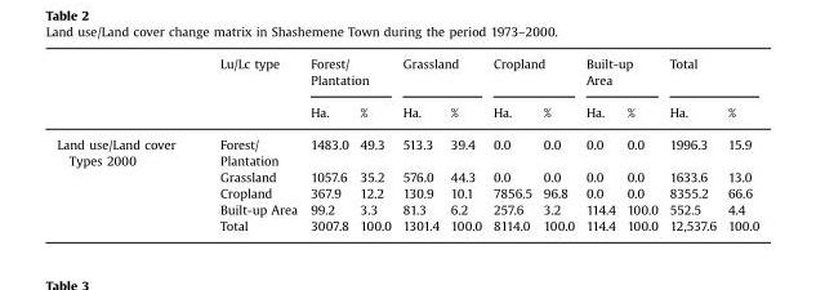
<table><thead><tr><td rowspan="2"></td><td rowspan="2">Lu/Lc type</td><td colspan="2">Forest/ Plantation</td><td colspan="2">Grassland</td><td colspan="2">Cropland</td><td colspan="2">Built-up Area</td><td colspan="2">Total</td></tr><tr><td>Ha.</td><td>%</td><td>Ha.</td><td>%</td><td>Ha.</td><td>%</td><td>Ha.</td><td>%</td><td>Ha.</td><td>%</td></tr></thead><tbody><tr><td rowspan="5">Land use/Land cover Types 2000</td><td>Forest/ Plantation</td><td>1483.0</td><td>49.3</td><td>513.3</td><td>39.4</td><td>0.0</td><td>0.0</td><td>0.0</td><td>0.0</td><td>1996.3</td><td>15.9</td></tr><tr><td>Grassland</td><td>1057.6</td><td>35.2</td><td>576.0</td><td>44.3</td><td>0.0</td><td>0.0</td><td>0.0</td><td>0.0</td><td>1633.6</td><td>13.0</td></tr><tr><td>Cropland</td><td>367.9</td><td>12.2</td><td>130.9</td><td>10.1</td><td>7856.5</td><td>96.8</td><td>0.0</td><td>0.0</td><td>8355.2</td><td>66.6</td></tr><tr><td>Built-up Area</td><td>99.2</td><td>3.3</td><td>81.3</td><td>6.2</td><td>257.6</td><td>3.2</td><td>114.4</td><td>100.0</td><td>552.5</td><td>4.4</td></tr><tr><td>Total</td><td>3007.8</td><td>100.0</td><td>1301.4</td><td>100.0</td><td>8114.0</td><td>100.0</td><td>114.4</td><td>100.0</td><td>12,537.6</td><td>100.0</td></tr></tbody></table>